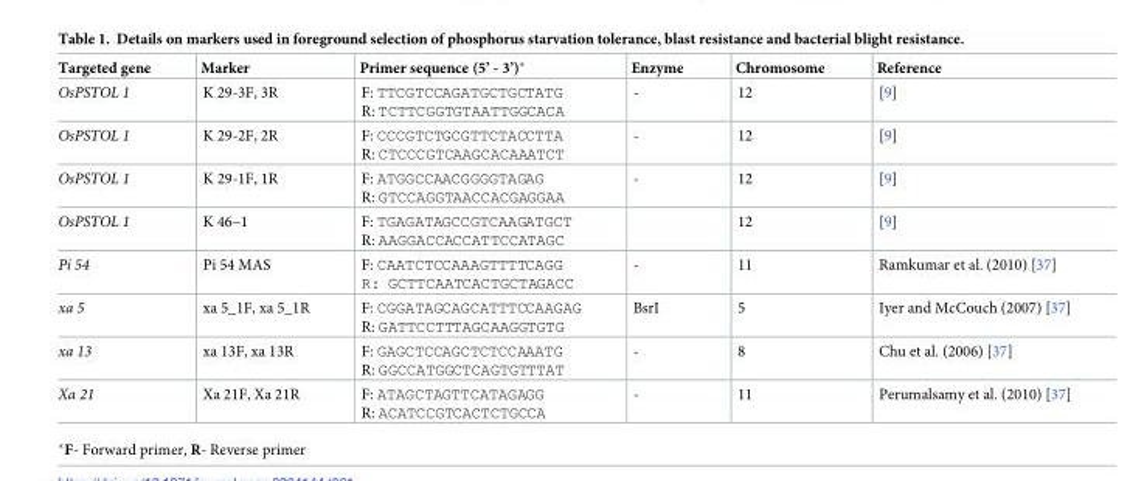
<table><thead><tr><td>Targeted gene</td><td>Marker</td><td>Primer sequence (5’ - 3’)*</td><td>Enzyme</td><td>Chromosome</td><td>Reference</td></tr></thead><tbody><tr><td>OsPSTOL 1</td><td>K 29-3F, 3R</td><td>F: TTCGTCCAGATGCTGCTATG R: TCTTCGGTGTAATTGGCACA</td><td>-</td><td>12</td><td>[9]</td></tr><tr><td>OsPSTOL 1</td><td>K 29-2F, 2R</td><td>F: CCCGTCTGCGTTCTACCTTA R: CTCCCGTCAAGCACAAATCT</td><td>-</td><td>12</td><td>[9]</td></tr><tr><td>OsPSTOL 1</td><td>K 29-1F, 1R</td><td>F: ATGGCCAACGGGGTAGAG R: GTCCAGGTAACCACGAGGAA</td><td>-</td><td>12</td><td>[9]</td></tr><tr><td>OsPSTOL 1</td><td>K 46–1</td><td>F: TGAGATAGCCGTCAAGATGCT R: AAGGACCACCATTCCATAGC</td><td></td><td>12</td><td>[9]</td></tr><tr><td>Pi 54</td><td>Pi 54 MAS</td><td>F: CAATCTCCAAAGTTTTCAGG R: GCTTCAATCACTGCTAGACC</td><td>-</td><td>11</td><td>Ramkumar et al. (2010) [37]</td></tr><tr><td>xa 5</td><td>xa 5_1F, xa 5_1R</td><td>F: CGGATAGCAGCATTTCCAAGAG R: GATTCCTTTAGCAAGGTGTG</td><td>BsrI</td><td>5</td><td>Iyer and McCouch (2007) [37]</td></tr><tr><td>xa 13</td><td>xa 13F, xa 13R</td><td>F: GAGCTCCAGCTCTCCAAATG R: GGCCATGGCTCAGTGTTTAT</td><td>-</td><td>8</td><td>Chu et al. (2006) [37]</td></tr><tr><td>Xa 21</td><td>Xa 21F, Xa 21R</td><td>F: ATAGCTAGTTCATAGAGG R: ACATCCGTCACTCTGCCA</td><td>-</td><td>11</td><td>Perumalsamy et al. (2010) [37]</td></tr></tbody></table>